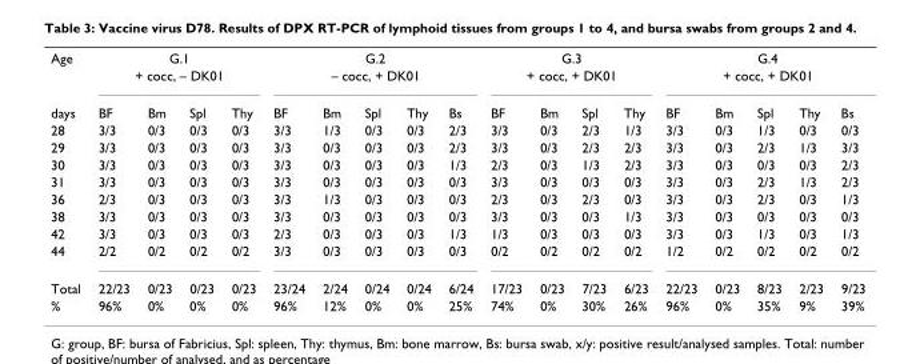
<table><tbody><tr><td rowspan="2">Age</td><td colspan="4">G.1</td><td colspan="5">G.2</td><td colspan="4">G.3</td><td colspan="5">G.4</td></tr><tr><td colspan="4">+ cocc, – DK01</td><td colspan="5">– cocc, + DK01</td><td colspan="4">+ cocc, + DK01</td><td colspan="5">+ cocc, + DK01</td></tr><tr><td>days</td><td>BF</td><td>Bm</td><td>Spl</td><td>Thy</td><td>BF</td><td>Bm</td><td>Spl</td><td>Thy</td><td>Bs</td><td>BF</td><td>Bm</td><td>Spl</td><td>Thy</td><td>BF</td><td>Bm</td><td>Spl</td><td>Thy</td><td>Bs</td></tr><tr><td>28</td><td>3/3</td><td>0/3</td><td>0/3</td><td>0/3</td><td>3/3</td><td>1/3</td><td>0/3</td><td>0/3</td><td>2/3</td><td>3/3</td><td>0/3</td><td>2/3</td><td>1/3</td><td>3/3</td><td>0/3</td><td>1/3</td><td>0/3</td><td>0/3</td></tr><tr><td>29</td><td>3/3</td><td>0/3</td><td>0/3</td><td>0/3</td><td>3/3</td><td>0/3</td><td>0/3</td><td>0/3</td><td>2/3</td><td>3/3</td><td>0/3</td><td>2/3</td><td>2/3</td><td>3/3</td><td>0/3</td><td>2/3</td><td>1/3</td><td>3/3</td></tr><tr><td>30</td><td>3/3</td><td>0/3</td><td>0/3</td><td>0/3</td><td>3/3</td><td>0/3</td><td>0/3</td><td>0/3</td><td>1/3</td><td>2/3</td><td>0/3</td><td>1/3</td><td>2/3</td><td>3/3</td><td>0/3</td><td>0/3</td><td>0/3</td><td>2/3</td></tr><tr><td>31</td><td>3/3</td><td>0/3</td><td>0/3</td><td>0/3</td><td>3/3</td><td>0/3</td><td>0/3</td><td>0/3</td><td>0/3</td><td>3/3</td><td>0/3</td><td>0/3</td><td>0/3</td><td>3/3</td><td>0/3</td><td>2/3</td><td>1/3</td><td>2/3</td></tr><tr><td>36</td><td>2/3</td><td>0/3</td><td>0/3</td><td>0/3</td><td>3/3</td><td>1/3</td><td>0/3</td><td>0/3</td><td>0/3</td><td>2/3</td><td>0/3</td><td>2/3</td><td>0/3</td><td>3/3</td><td>0/3</td><td>2/3</td><td>0/3</td><td>1/3</td></tr><tr><td>38</td><td>3/3</td><td>0/3</td><td>0/3</td><td>0/3</td><td>3/3</td><td>0/3</td><td>0/3</td><td>0/3</td><td>0/3</td><td>3/3</td><td>0/3</td><td>0/3</td><td>1/3</td><td>3/3</td><td>0/3</td><td>0/3</td><td>0/3</td><td>0/3</td></tr><tr><td>42</td><td>3/3</td><td>0/3</td><td>0/3</td><td>0/3</td><td>2/3</td><td>0/3</td><td>0/3</td><td>0/3</td><td>1/3</td><td>1/3</td><td>0/3</td><td>0/3</td><td>0/3</td><td>3/3</td><td>0/3</td><td>1/3</td><td>0/3</td><td>1/3</td></tr><tr><td>44</td><td>2/2</td><td>0/2</td><td>0/2</td><td>0/2</td><td>3/3</td><td>0/3</td><td>0/3</td><td>0/3</td><td>0/3</td><td>0/2</td><td>0/2</td><td>0/2</td><td>0/2</td><td>1/2</td><td>0/2</td><td>0/2</td><td>0/2</td><td>0/2</td></tr><tr><td>Total</td><td>22/23</td><td>0/23</td><td>0/23</td><td>0/23</td><td>23/24</td><td>2/24</td><td>0/24</td><td>0/24</td><td>6/24</td><td>17/23</td><td>0/23</td><td>7/23</td><td>6/23</td><td>22/23</td><td>0/23</td><td>8/23</td><td>2/23</td><td>9/23</td></tr><tr><td>%</td><td>96%</td><td>0%</td><td>0%</td><td>0%</td><td>96%</td><td>12%</td><td>0%</td><td>0%</td><td>25%</td><td>74%</td><td>0%</td><td>30%</td><td>26%</td><td>96%</td><td>0%</td><td>35%</td><td>9%</td><td>39%</td></tr></tbody></table>